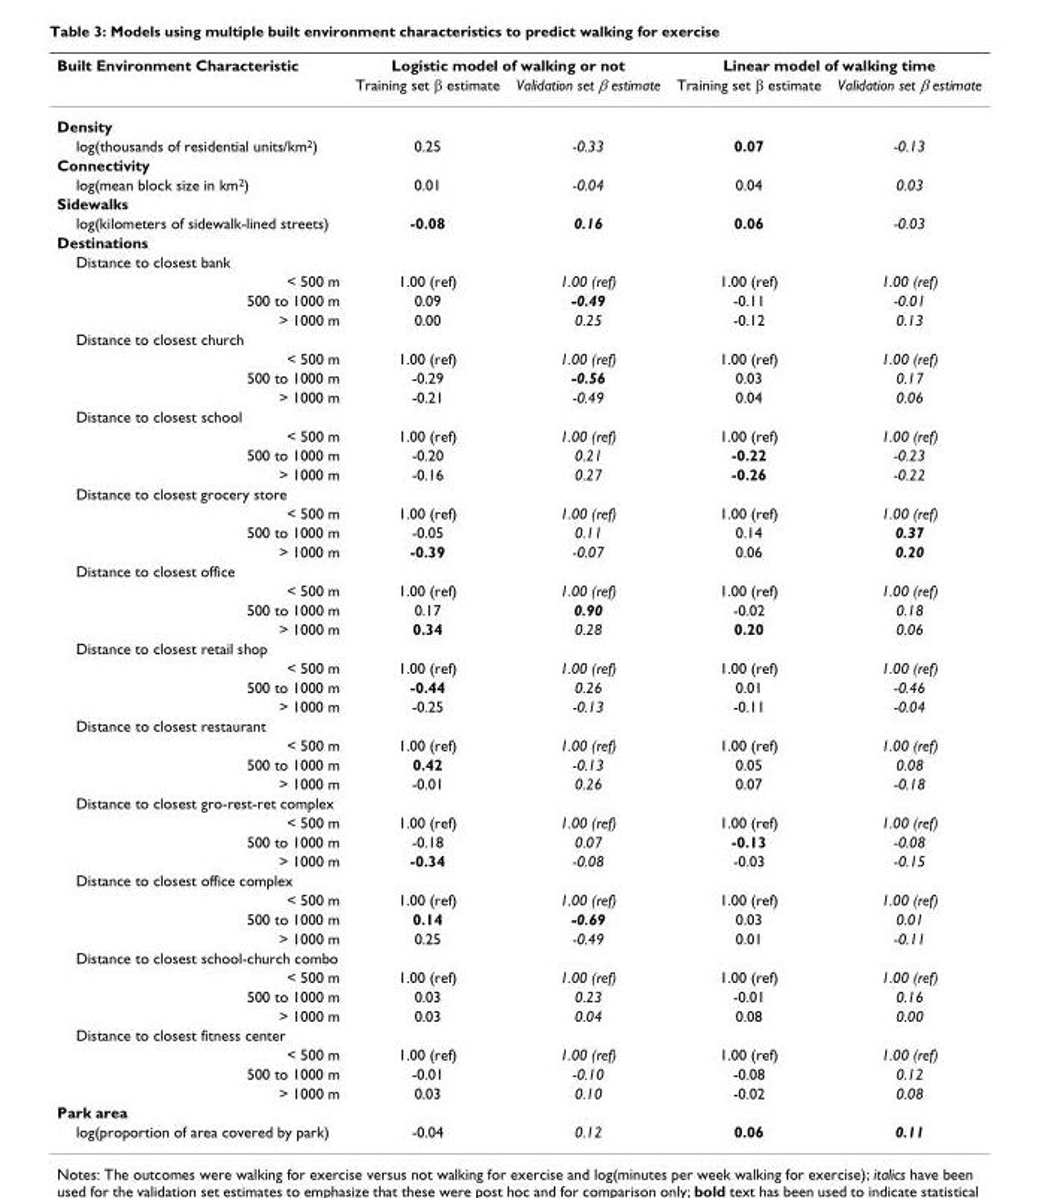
<table><thead><tr><td rowspan="2">Built Environment Characteristic</td><td colspan="2">Logistic model of walking or not</td><td colspan="2">Linear model of walking time</td></tr><tr><td>Training set β estimate</td><td>Validation set β estimate</td><td>Training set β estimate</td><td>Validation set β estimate</td></tr></thead><tbody><tr><td colspan="5">Density</td></tr><tr><td>log(thousands of residential units/km<sup>2</sup>)</td><td>0.25</td><td>-0.33</td><td>0.07</td><td>-0.13</td></tr><tr><td colspan="5">Connectivity</td></tr><tr><td>log(mean block size in km<sup>2</sup>)</td><td>0.01</td><td>-0.04</td><td>0.04</td><td>0.03</td></tr><tr><td colspan="5">Sidewalks</td></tr><tr><td>log(kilometers of sidewalk-lined streets)</td><td>-0.08</td><td>0.16</td><td>0.06</td><td>-0.03</td></tr><tr><td colspan="5">Destinations</td></tr><tr><td colspan="5">Distance to closest bank</td></tr><tr><td>&lt; 500 m</td><td>1.00 (ref)</td><td>1.00 (ref)</td><td>1.00 (ref)</td><td>1.00 (ref)</td></tr><tr><td>500 to 1000 m</td><td>0.09</td><td>-0.49</td><td>-0.11</td><td>-0.01</td></tr><tr><td>&gt; 1000 m</td><td>0.00</td><td>0.25</td><td>-0.12</td><td>0.13</td></tr><tr><td colspan="5">Distance to closest church</td></tr><tr><td>&lt; 500 m</td><td>1.00 (ref)</td><td>1.00 (ref)</td><td>1.00 (ref)</td><td>1.00 (ref)</td></tr><tr><td>500 to 1000 m</td><td>-0.29</td><td>-0.56</td><td>0.03</td><td>0.17</td></tr><tr><td>&gt; 1000 m</td><td>-0.21</td><td>-0.49</td><td>0.04</td><td>0.06</td></tr><tr><td colspan="5">Distance to closest school</td></tr><tr><td>&lt; 500 m</td><td>1.00 (ref)</td><td>1.00 (ref)</td><td>1.00 (ref)</td><td>1.00 (ref)</td></tr><tr><td>500 to 1000 m</td><td>-0.20</td><td>0.21</td><td>-0.22</td><td>-0.23</td></tr><tr><td>&gt; 1000 m</td><td>-0.16</td><td>0.27</td><td>-0.26</td><td>-0.22</td></tr><tr><td colspan="5">Distance to closest grocery store</td></tr><tr><td>&lt; 500 m</td><td>1.00 (ref)</td><td>1.00 (ref)</td><td>1.00 (ref)</td><td>1.00 (ref)</td></tr><tr><td>500 to 1000 m</td><td>-0.05</td><td>0.11</td><td>0.14</td><td>0.37</td></tr><tr><td>&gt; 1000 m</td><td>-0.39</td><td>-0.07</td><td>0.06</td><td>0.20</td></tr><tr><td colspan="5">Distance to closest office</td></tr><tr><td>&lt; 500 m</td><td>1.00 (ref)</td><td>1.00 (ref)</td><td>1.00 (ref)</td><td>1.00 (ref)</td></tr><tr><td>500 to 1000 m</td><td>0.17</td><td>0.90</td><td>-0.02</td><td>0.18</td></tr><tr><td>&gt; 1000 m</td><td>0.34</td><td>0.28</td><td>0.20</td><td>0.06</td></tr><tr><td colspan="5">Distance to closest retail shop</td></tr><tr><td>&lt; 500 m</td><td>1.00 (ref)</td><td>1.00 (ref)</td><td>1.00 (ref)</td><td>1.00 (ref)</td></tr><tr><td>500 to 1000 m</td><td>-0.44</td><td>0.26</td><td>0.01</td><td>-0.46</td></tr><tr><td>&gt; 1000 m</td><td>-0.25</td><td>-0.13</td><td>-0.11</td><td>-0.04</td></tr><tr><td colspan="5">Distance to closest restaurant</td></tr><tr><td>&lt; 500 m</td><td>1.00 (ref)</td><td>1.00 (ref)</td><td>1.00 (ref)</td><td>1.00 (ref)</td></tr><tr><td>500 to 1000 m</td><td>0.42</td><td>-0.13</td><td>0.05</td><td>0.08</td></tr><tr><td>&gt; 1000 m</td><td>-0.01</td><td>0.26</td><td>0.07</td><td>-0.18</td></tr><tr><td colspan="5">Distance to closest gro-rest-ret complex</td></tr><tr><td>&lt; 500 m</td><td>1.00 (ref)</td><td>1.00 (ref)</td><td>1.00 (ref)</td><td>1.00 (ref)</td></tr><tr><td>500 to 1000 m</td><td>-0.18</td><td>0.07</td><td>-0.13</td><td>-0.08</td></tr><tr><td>&gt; 1000 m</td><td>-0.34</td><td>-0.08</td><td>-0.03</td><td>-0.15</td></tr><tr><td colspan="5">Distance to closest office complex</td></tr><tr><td>&lt; 500 m</td><td>1.00 (ref)</td><td>1.00 (ref)</td><td>1.00 (ref)</td><td>1.00 (ref)</td></tr><tr><td>500 to 1000 m</td><td>0.14</td><td>-0.69</td><td>0.03</td><td>0.01</td></tr><tr><td>&gt; 1000 m</td><td>0.25</td><td>-0.49</td><td>0.01</td><td>-0.11</td></tr><tr><td colspan="5">Distance to closest school-church combo</td></tr><tr><td>&lt; 500 m</td><td>1.00 (ref)</td><td>1.00 (ref)</td><td>1.00 (ref)</td><td>1.00 (ref)</td></tr><tr><td>500 to 1000 m</td><td>0.03</td><td>0.23</td><td>-0.01</td><td>0.16</td></tr><tr><td>&gt; 1000 m</td><td>0.03</td><td>0.04</td><td>0.08</td><td>0.00</td></tr><tr><td colspan="5">Distance to closest fitness center</td></tr><tr><td>&lt; 500 m</td><td>1.00 (ref)</td><td>1.00 (ref)</td><td>1.00 (ref)</td><td>1.00 (ref)</td></tr><tr><td>500 to 1000 m</td><td>-0.01</td><td>-0.10</td><td>-0.08</td><td>0.12</td></tr><tr><td>&gt; 1000 m</td><td>0.03</td><td>0.10</td><td>-0.02</td><td>0.08</td></tr><tr><td colspan="5">Park area</td></tr><tr><td>log(proportion of area covered by park)</td><td>-0.04</td><td>0.12</td><td>0.06</td><td>0.11</td></tr></tbody></table>